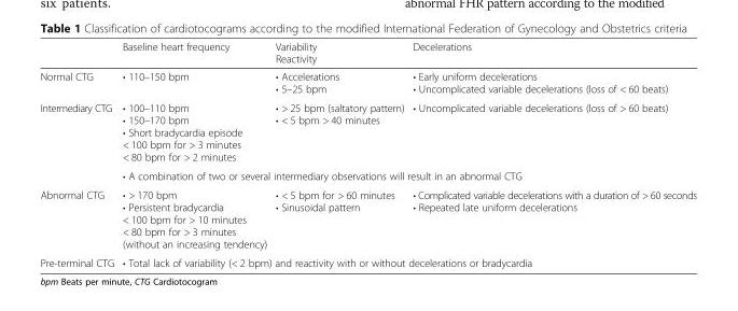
<table><thead><tr><td></td><td>Baseline heart frequency</td><td>Variability Reactivity</td><td>Decelerations</td></tr></thead><tbody><tr><td>Normal CTG</td><td>• 110–150 bpm</td><td>• Accelerations • 5–25 bpm</td><td>• Early uniform decelerations • Uncomplicated variable decelerations (loss of &lt; 60 beats)</td></tr><tr><td rowspan="2">Intermediary CTG</td><td>• 100–110 bpm • 150–170 bpm • Short bradycardia episode &lt; 100 bpm for &gt; 3 minutes &lt; 80 bpm for &gt; 2 minutes</td><td>• &gt; 25 bpm (saltatory pattern) • &lt; 5 bpm &gt; 40 minutes</td><td>• Uncomplicated variable decelerations (loss of &gt; 60 beats)</td></tr><tr><td colspan="3">• A combination of two or several intermediary observations will result in an abnormal CTG</td></tr><tr><td>Abnormal CTG</td><td>• &gt; 170 bpm • Persistent bradycardia &lt; 100 bpm for &gt; 10 minutes &lt; 80 bpm for &gt; 3 minutes (without an increasing tendency)</td><td>• &lt; 5 bpm for &gt; 60 minutes • Sinusoidal pattern</td><td>• Complicated variable decelerations with a duration of &gt; 60 seconds • Repeated late uniform decelerations</td></tr><tr><td>Pre-terminal CTG</td><td colspan="3">• Total lack of variability (&lt; 2 bpm) and reactivity with or without decelerations or bradycardia</td></tr></tbody></table>